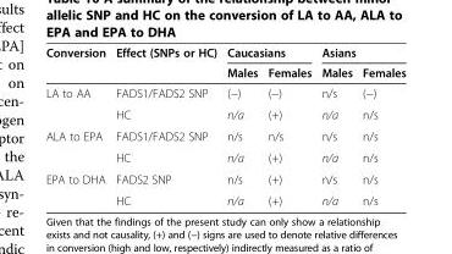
<table><thead><tr><td rowspan="2">Conversion</td><td rowspan="2">Effect (SNPs or HC)</td><td colspan="2">Caucasians</td><td colspan="2">Asians</td></tr><tr><td>Males</td><td>Females</td><td>Males</td><td>Females</td></tr></thead><tbody><tr><td rowspan="2">LA to AA</td><td>FADS1/FADS2 SNP</td><td>(−)</td><td>(−)</td><td>n/s</td><td>(−)</td></tr><tr><td>HC</td><td>n/a</td><td>(+)</td><td>n/a</td><td>n/s</td></tr><tr><td rowspan="2">ALA to EPA</td><td>FADS1/FADS2 SNP</td><td>n/s</td><td>n/s</td><td>n/s</td><td>n/s</td></tr><tr><td>HC</td><td>n/a</td><td>(+)</td><td>n/a</td><td>n/s</td></tr><tr><td rowspan="2">EPA to DHA</td><td>FADS2 SNP</td><td>n/s</td><td>(+)</td><td>n/s</td><td>n/s</td></tr><tr><td>HC</td><td>n/a</td><td>(+)</td><td>n/a</td><td>n/s</td></tr></tbody></table>